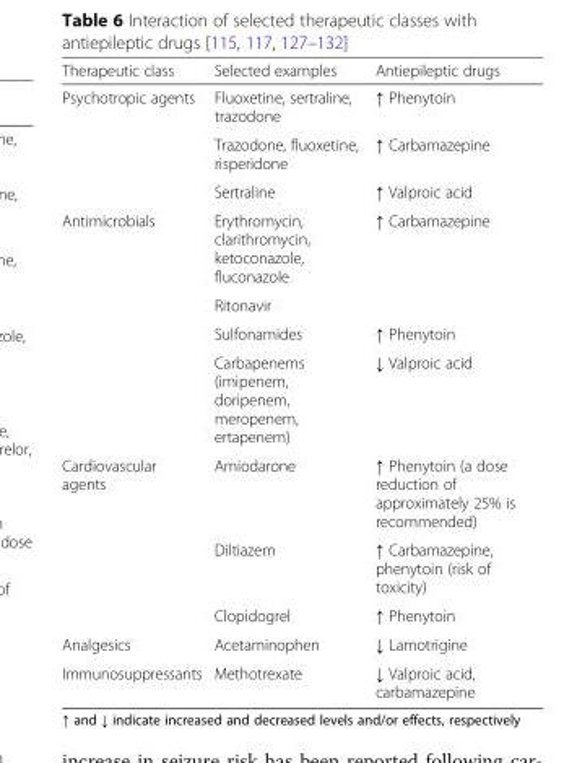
<table><thead><tr><td>Therapeutic class</td><td>Selected examples</td><td>Antiepileptic drugs</td></tr></thead><tbody><tr><td rowspan="3">Psychotropic agents</td><td>Fluoxetine, sertraline, trazodone</td><td>↑ Phenytoin</td></tr><tr><td>Trazodone, fluoxetine, risperidone</td><td>↑ Carbamazepine</td></tr><tr><td>Sertraline</td><td>↑ Valproic acid</td></tr><tr><td rowspan="4">Antimicrobials</td><td>Erythromycin, clarithromycin, ketoconazole, fluconazole</td><td rowspan="2">↑ Carbamazepine</td></tr><tr><td>Ritonavir</td></tr><tr><td>Sulfonamides</td><td>↑ Phenytoin</td></tr><tr><td>Carbapenems (imipenem, doripenem, meropenem, ertapenem)</td><td>↓ Valproic acid</td></tr><tr><td rowspan="3">Cardiovascular agents</td><td>Amiodarone</td><td>↑ Phenytoin (a dose reduction of approximately 25% is recommended)</td></tr><tr><td>Diltiazem</td><td>↑ Carbamazepine, phenytoin (risk of toxicity)</td></tr><tr><td>Clopidogrel</td><td>↑ Phenytoin</td></tr><tr><td>Analgesics</td><td>Acetaminophen</td><td>↓ Lamotrigine</td></tr><tr><td>Immunosuppressants</td><td>Methotrexate</td><td>↓ Valproic acid, carbamazepine</td></tr></tbody></table>